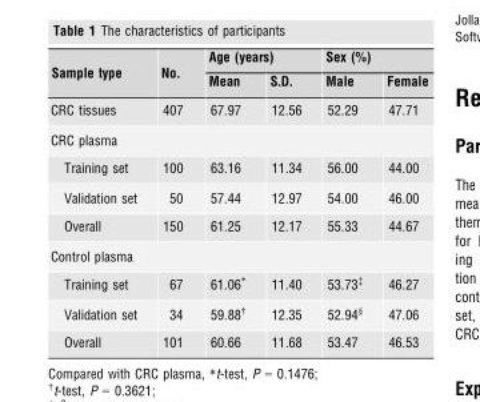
<table><thead><tr><td rowspan="2">Sample type</td><td rowspan="2">No.</td><td colspan="2">Age (years)</td><td colspan="2">Sex (%)</td></tr><tr><td>Mean</td><td>S.D.</td><td>Male</td><td>Female</td></tr></thead><tbody><tr><td>CRC tissues</td><td>407</td><td>67.97</td><td>12.56</td><td>52.29</td><td>47.71</td></tr><tr><td colspan="6">CRC plasma</td></tr><tr><td>Training set</td><td>100</td><td>63.16</td><td>11.34</td><td>56.00</td><td>44.00</td></tr><tr><td>Validation set</td><td>50</td><td>57.44</td><td>12.97</td><td>54.00</td><td>46.00</td></tr><tr><td>Overall</td><td>150</td><td>61.25</td><td>12.17</td><td>55.33</td><td>44.67</td></tr><tr><td colspan="6">Control plasma</td></tr><tr><td>Training set</td><td>67</td><td>61.06*</td><td>11.40</td><td>53.73‡</td><td>46.27</td></tr><tr><td>Validation set</td><td>34</td><td>59.88†</td><td>12.35</td><td>52.94§</td><td>47.06</td></tr><tr><td>Overall</td><td>101</td><td>60.66</td><td>11.68</td><td>53.47</td><td>46.53</td></tr></tbody></table>